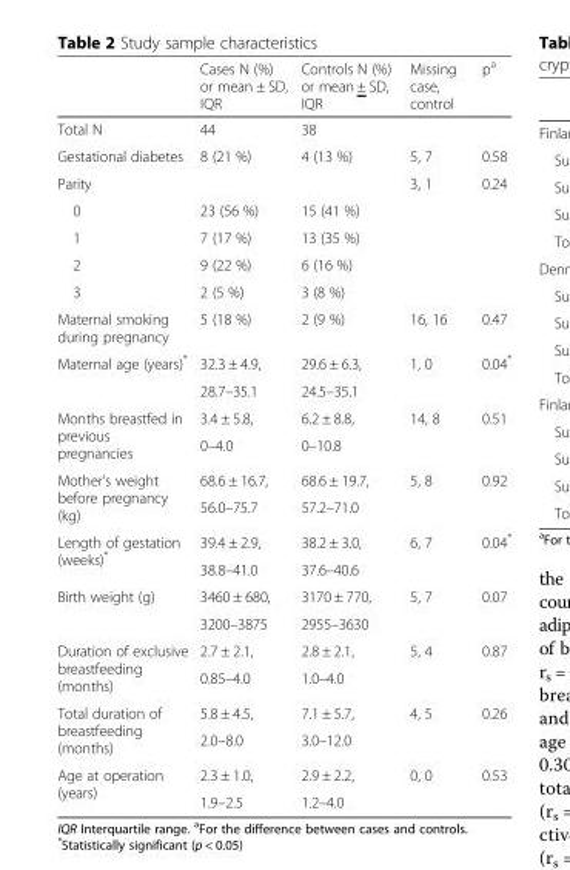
<table><thead><tr><td></td><td>Cases N (%) or mean ± SD, IQR</td><td>Controls N (%) or mean ± SD, IQR</td><td>Missing case, control</td><td>p<sup>a</sup></td></tr></thead><tbody><tr><td>Total N</td><td>44</td><td>38</td><td></td><td></td></tr><tr><td>Gestational diabetes</td><td>8 (21 %)</td><td>4 (13 %)</td><td>5, 7</td><td>0.58</td></tr><tr><td>Parity</td><td></td><td></td><td>3, 1</td><td>0.24</td></tr><tr><td>0</td><td>23 (56 %)</td><td>15 (41 %)</td><td></td><td></td></tr><tr><td>1</td><td>7 (17 %)</td><td>13 (35 %)</td><td></td><td></td></tr><tr><td>2</td><td>9 (22 %)</td><td>6 (16 %)</td><td></td><td></td></tr><tr><td>3</td><td>2 (5 %)</td><td>3 (8 %)</td><td></td><td></td></tr><tr><td>Maternal smoking during pregnancy</td><td>5 (18 %)</td><td>2 (9 %)</td><td>16, 16</td><td>0.47</td></tr><tr><td rowspan="2">Maternal age (years)*</td><td>32.3 ± 4.9,</td><td>29.6 ± 6.3,</td><td rowspan="2">1, 0</td><td rowspan="2">0.04*</td></tr><tr><td>28.7–35.1</td><td>24.5–35.1</td></tr><tr><td rowspan="2">Months breastfed in previous pregnancies</td><td>3.4 ± 5.8,</td><td>6.2 ± 8.8,</td><td rowspan="2">14, 8</td><td rowspan="2">0.51</td></tr><tr><td>0–4.0</td><td>0–10.8</td></tr><tr><td rowspan="2">Mother’s weight before pregnancy (kg)</td><td>68.6 ± 16.7,</td><td>68.6 ± 19.7,</td><td rowspan="2">5, 8</td><td rowspan="2">0.92</td></tr><tr><td>56.0–75.7</td><td>57.2–71.0</td></tr><tr><td rowspan="2">Length of gestation (weeks)*</td><td>39.4 ± 2.9,</td><td>38.2 ± 3.0,</td><td rowspan="2">6, 7</td><td rowspan="2">0.04*</td></tr><tr><td>38.8–41.0</td><td>37.6–40.6</td></tr><tr><td rowspan="2">Birth weight (g)</td><td>3460 ± 680,</td><td>3170 ± 770,</td><td rowspan="2">5, 7</td><td rowspan="2">0.07</td></tr><tr><td>3200–3875</td><td>2955–3630</td></tr><tr><td rowspan="2">Duration of exclusive breastfeeding (months)</td><td>2.7 ± 2.1,</td><td>2.8 ± 2.1,</td><td rowspan="2">5, 4</td><td rowspan="2">0.87</td></tr><tr><td>0.85–4.0</td><td>1.0–4.0</td></tr><tr><td rowspan="2">Total duration of breastfeeding (months)</td><td>5.8 ± 4.5,</td><td>7.1 ± 5.7,</td><td rowspan="2">4, 5</td><td rowspan="2">0.26</td></tr><tr><td>2.0–8.0</td><td>3.0–12.0</td></tr><tr><td rowspan="2">Age at operation (years)</td><td>2.3 ± 1.0,</td><td>2.9 ± 2.2,</td><td rowspan="2">0, 0</td><td rowspan="2">0.53</td></tr><tr><td>1.9–2.5</td><td>1.2–4.0</td></tr></tbody></table>